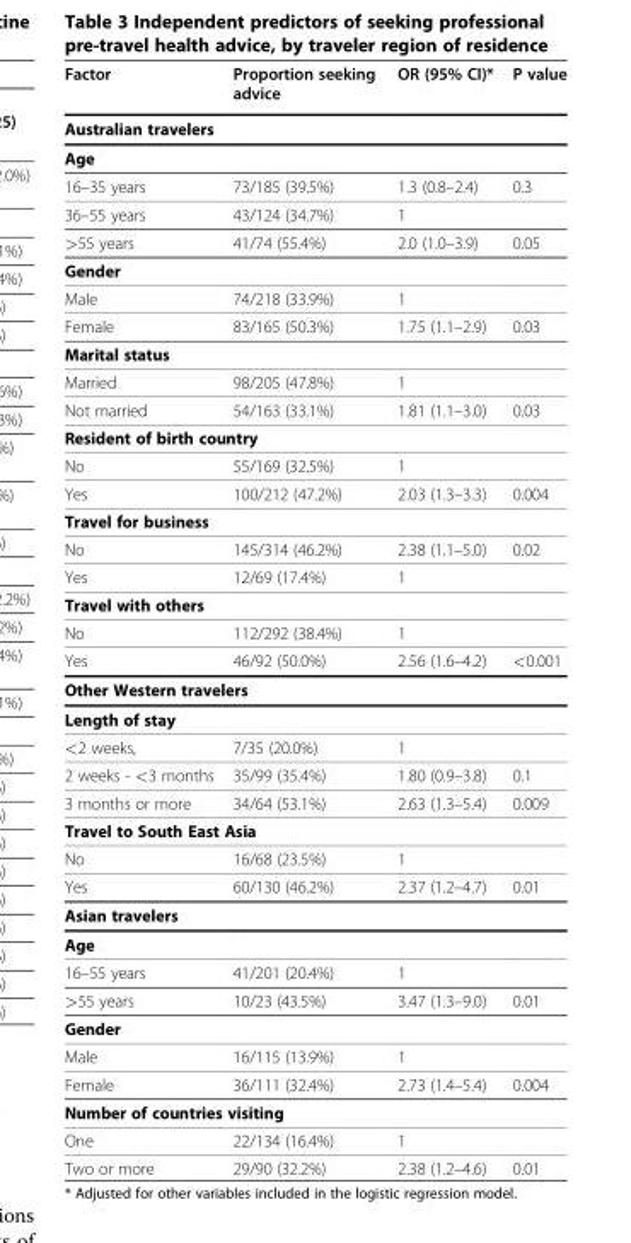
<table><thead><tr><td>Factor</td><td>Proportion seeking advice</td><td>OR (95% CI)*</td><td>P value</td></tr></thead><tbody><tr><td colspan="4">Australian travelers</td></tr><tr><td colspan="4">Age</td></tr><tr><td>16–35 years</td><td>73/185 (39.5%)</td><td>1.3 (0.8–2.4)</td><td>0.3</td></tr><tr><td>36–55 years</td><td>43/124 (34.7%)</td><td>1</td><td></td></tr><tr><td>&gt;55 years</td><td>41/74 (55.4%)</td><td>2.0 (1.0–3.9)</td><td>0.05</td></tr><tr><td colspan="4">Gender</td></tr><tr><td>Male</td><td>74/218 (33.9%)</td><td>1</td><td></td></tr><tr><td>Female</td><td>83/165 (50.3%)</td><td>1.75 (1.1–2.9)</td><td>0.03</td></tr><tr><td colspan="4">Marital status</td></tr><tr><td>Married</td><td>98/205 (47.8%)</td><td>1</td><td></td></tr><tr><td>Not married</td><td>54/163 (33.1%)</td><td>1.81 (1.1–3.0)</td><td>0.03</td></tr><tr><td colspan="4">Resident of birth country</td></tr><tr><td>No</td><td>55/169 (32.5%)</td><td>1</td><td></td></tr><tr><td>Yes</td><td>100/212 (47.2%)</td><td>2.03 (1.3–3.3)</td><td>0.004</td></tr><tr><td colspan="4">Travel for business</td></tr><tr><td>No</td><td>145/314 (46.2%)</td><td>2.38 (1.1–5.0)</td><td>0.02</td></tr><tr><td>Yes</td><td>12/69 (17.4%)</td><td>1</td><td></td></tr><tr><td colspan="4">Travel with others</td></tr><tr><td>No</td><td>112/292 (38.4%)</td><td>1</td><td></td></tr><tr><td>Yes</td><td>46/92 (50.0%)</td><td>2.56 (1.6–4.2)</td><td>&lt;0.001</td></tr><tr><td colspan="4">Other Western travelers</td></tr><tr><td colspan="4">Length of stay</td></tr><tr><td>&lt;2 weeks,</td><td>7/35 (20.0%)</td><td>1</td><td></td></tr><tr><td>2 weeks - &lt;3 months</td><td>35/99 (35.4%)</td><td>1.80 (0.9–3.8)</td><td>0.1</td></tr><tr><td>3 months or more</td><td>34/64 (53.1%)</td><td>2.63 (1.3–5.4)</td><td>0.009</td></tr><tr><td colspan="4">Travel to South East Asia</td></tr><tr><td>No</td><td>16/68 (23.5%)</td><td>1</td><td></td></tr><tr><td>Yes</td><td>60/130 (46.2%)</td><td>2.37 (1.2–4.7)</td><td>0.01</td></tr><tr><td colspan="4">Asian travelers</td></tr><tr><td colspan="4">Age</td></tr><tr><td>16–55 years</td><td>41/201 (20.4%)</td><td>1</td><td></td></tr><tr><td>&gt;55 years</td><td>10/23 (43.5%)</td><td>3.47 (1.3–9.0)</td><td>0.01</td></tr><tr><td colspan="4">Gender</td></tr><tr><td>Male</td><td>16/115 (13.9%)</td><td>1</td><td></td></tr><tr><td>Female</td><td>36/111 (32.4%)</td><td>2.73 (1.4–5.4)</td><td>0.004</td></tr><tr><td colspan="4">Number of countries visiting</td></tr><tr><td>One</td><td>22/134 (16.4%)</td><td>1</td><td></td></tr><tr><td>Two or more</td><td>29/90 (32.2%)</td><td>2.38 (1.2–4.6)</td><td>0.01</td></tr></tbody></table>